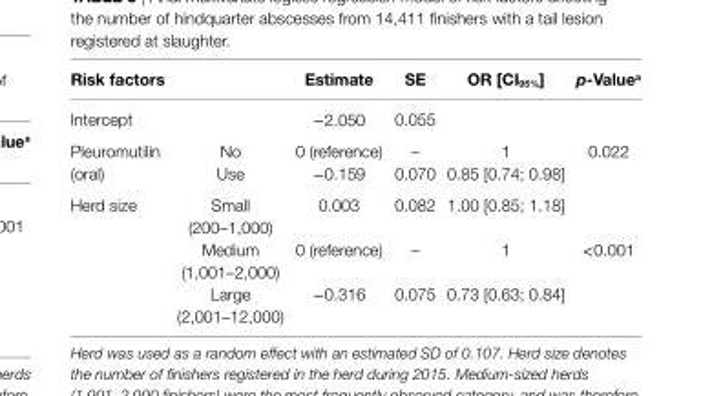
<table><thead><tr><td>risk factors</td><td></td><td>estimate</td><td>se</td><td>Or [ci<sub>95%</sub>]</td><td>p-Value<sup>a</sup></td></tr></thead><tbody><tr><td>Intercept</td><td></td><td>−2.050</td><td>0.055</td><td></td><td></td></tr><tr><td rowspan="2">Pleuromutilin (oral)</td><td>No</td><td>0 (reference)</td><td>–</td><td>1</td><td rowspan="2">0.022</td></tr><tr><td>Use</td><td>−0.159</td><td>0.070</td><td>0.85 [0.74; 0.98]</td></tr><tr><td rowspan="3">Herd size</td><td>Small (200–1,000)</td><td>0.003</td><td>0.082</td><td>1.00 [0.85; 1.18]</td><td></td></tr><tr><td>Medium (1,001–2,000)</td><td>0 (reference)</td><td>–</td><td>1</td><td>&lt;0.001</td></tr><tr><td>Large (2,001–12,000)</td><td>−0.316</td><td>0.075</td><td>0.73 [0.63; 0.84]</td><td></td></tr></tbody></table>